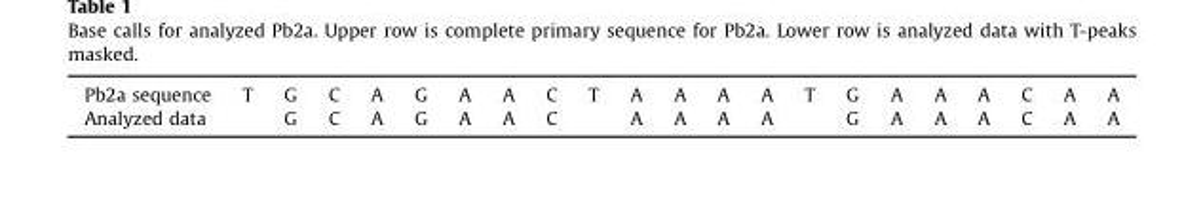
<table><tbody><tr><td>Pb2a sequence</td><td>T</td><td>G</td><td>C</td><td>A</td><td>G</td><td>A</td><td>A</td><td>C</td><td>T</td><td>A</td><td>A</td><td>A</td><td>A</td><td>T</td><td>G</td><td>A</td><td>A</td><td>A</td><td>C</td><td>A</td><td>A</td></tr><tr><td>Analyzed data</td><td></td><td>G</td><td>C</td><td>A</td><td>G</td><td>A</td><td>A</td><td>C</td><td></td><td>A</td><td>A</td><td>A</td><td>A</td><td></td><td>G</td><td>A</td><td>A</td><td>A</td><td>C</td><td>A</td><td>A</td></tr></tbody></table>